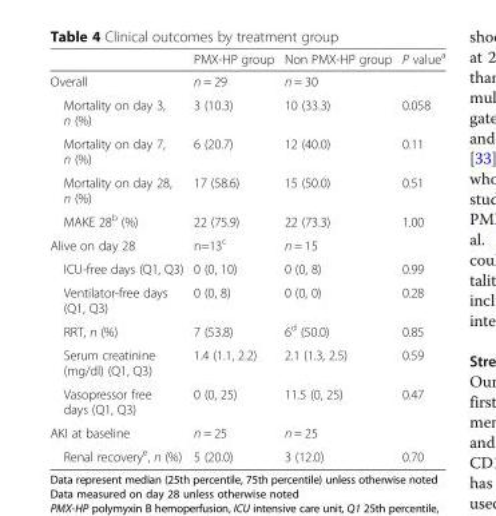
<table><thead><tr><td></td><td>PMX-HP group</td><td>Non PMX-HP group</td><td>P value<sup>a</sup></td></tr></thead><tbody><tr><td>Overall</td><td>n = 29</td><td>n = 30</td><td></td></tr><tr><td>Mortality on day 3, n (%)</td><td>3 (10.3)</td><td>10 (33.3)</td><td>0.058</td></tr><tr><td>Mortality on day 7, n (%)</td><td>6 (20.7)</td><td>12 (40.0)</td><td>0.11</td></tr><tr><td>Mortality on day 28, n (%)</td><td>17 (58.6)</td><td>15 (50.0)</td><td>0.51</td></tr><tr><td>MAKE 28<sup>b</sup> (%)</td><td>22 (75.9)</td><td>22 (73.3)</td><td>1.00</td></tr><tr><td>Alive on day 28</td><td>n=13<sup>c</sup></td><td>n = 15</td><td></td></tr><tr><td>ICU-free days (Q1, Q3)</td><td>0 (0, 10)</td><td>0 (0, 8)</td><td>0.99</td></tr><tr><td>Ventilator-free days (Q1, Q3)</td><td>0 (0, 8)</td><td>0 (0, 0)</td><td>0.28</td></tr><tr><td>RRT, n (%)</td><td>7 (53.8)</td><td>6<sup>d</sup> (50.0)</td><td>0.85</td></tr><tr><td>Serum creatinine (mg/dl) (Q1, Q3)</td><td>1.4 (1.1, 2.2)</td><td>2.1 (1.3, 2.5)</td><td>0.59</td></tr><tr><td>Vasopressor free days (Q1, Q3)</td><td>0 (0, 25)</td><td>11.5 (0, 25)</td><td>0.47</td></tr><tr><td>AKI at baseline</td><td>n = 25</td><td>n = 25</td><td></td></tr><tr><td>Renal recovery<sup>e</sup>, n (%)</td><td>5 (20.0)</td><td>3 (12.0)</td><td>0.70</td></tr></tbody></table>